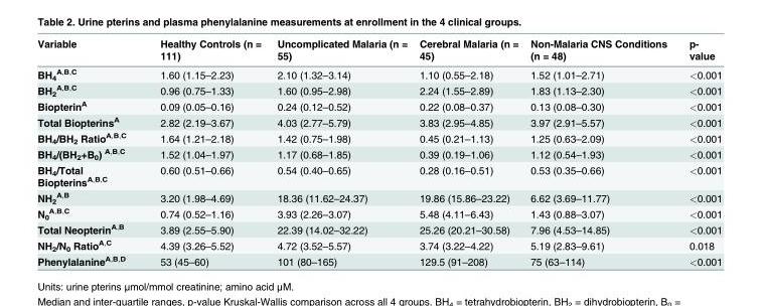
<table><thead><tr><td>Variable</td><td>Healthy Controls (n = 111)</td><td>Uncomplicated Malaria (n = 55)</td><td>Cerebral Malaria (n = 45)</td><td>Non-Malaria CNS Conditions (n = 48)</td><td>p- value</td></tr></thead><tbody><tr><td>BH<sub>4</sub> <sup>A,B,C</sup></td><td>1.60 (1.15–2.23)</td><td>2.10 (1.32–3.14)</td><td>1.10 (0.55–2.18)</td><td>1.52 (1.01–2.71)</td><td>&lt;0.001</td></tr><tr><td>BH<sub>2</sub> <sup>A,B,C</sup></td><td>0.96 (0.75–1.33)</td><td>1.60 (0.95–2.98)</td><td>2.24 (1.55–2.89)</td><td>1.83 (1.13–2.30)</td><td>&lt;0.001</td></tr><tr><td>Biopterin<sup>A</sup></td><td>0.09 (0.05–0.16)</td><td>0.24 (0.12–0.52)</td><td>0.22 (0.08–0.37)</td><td>0.13 (0.08–0.30)</td><td>&lt;0.001</td></tr><tr><td>Total Biopterins<sup>A</sup></td><td>2.82 (2.19–3.67)</td><td>4.03 (2.77–5.79)</td><td>3.83 (2.95–4.85)</td><td>3.97 (2.91–5.57)</td><td>&lt;0.001</td></tr><tr><td>BH<sub>4</sub>/BH<sub>2</sub> Ratio<sup>A,B,C</sup></td><td>1.64 (1.21–2.18)</td><td>1.42 (0.75–1.98)</td><td>0.45 (0.21–1.13)</td><td>1.25 (0.63–2.09)</td><td>&lt;0.001</td></tr><tr><td>BH<sub>4</sub>/(BH<sub>2</sub>+B<sub>0</sub>) <sup>A,B,C</sup></td><td>1.52 (1.04–1.97)</td><td>1.17 (0.68–1.85)</td><td>0.39 (0.19–1.06)</td><td>1.12 (0.54–1.93)</td><td>&lt;0.001</td></tr><tr><td>BH<sub>4</sub>/Total Biopterins<sup>A,B,C</sup></td><td>0.60 (0.51–0.66)</td><td>0.54 (0.40–0.65)</td><td>0.28 (0.16–0.51)</td><td>0.53 (0.35–0.66)</td><td>&lt;0.001</td></tr><tr><td>NH<sub>2</sub> <sup>A,B</sup></td><td>3.20 (1.98–4.69)</td><td>18.36 (11.62–24.37)</td><td>19.86 (15.86–23.22)</td><td>6.62 (3.69–11.77)</td><td>&lt;0.001</td></tr><tr><td>N<sub>0</sub> <sup>A,B,C</sup></td><td>0.74 (0.52–1.16)</td><td>3.93 (2.26–3.07)</td><td>5.48 (4.11–6.43)</td><td>1.43 (0.88–3.07)</td><td>&lt;0.001</td></tr><tr><td>Total Neopterin<sup>A,B</sup></td><td>3.89 (2.55–5.90)</td><td>22.39 (14.02–32.22)</td><td>25.26 (20.21–30.58)</td><td>7.96 (4.53–14.85)</td><td>&lt;0.001</td></tr><tr><td>NH<sub>2</sub>/N<sub>0</sub> Ratio<sup>A,C</sup></td><td>4.39 (3.26–5.52)</td><td>4.72 (3.52–5.57)</td><td>3.74 (3.22–4.22)</td><td>5.19 (2.83–9.61)</td><td>0.018</td></tr><tr><td>Phenylalanine<sup>A,B,D</sup></td><td>53 (45–60)</td><td>101 (80–165)</td><td>129.5 (91–208)</td><td>75 (63–114)</td><td>&lt;0.001</td></tr></tbody></table>